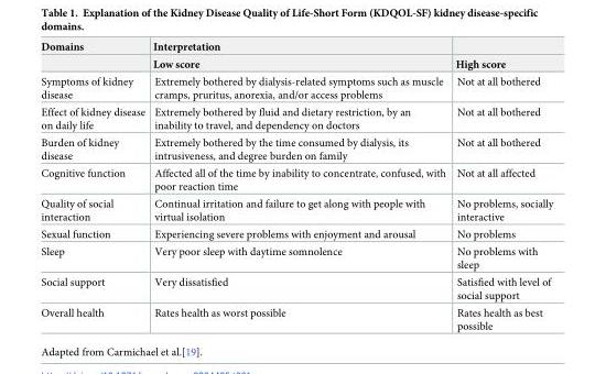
<table><thead><tr><td rowspan="2">Domains</td><td rowspan="2">Interpretation Low score</td><td rowspan="2">High score</td></tr><tr></tr></thead><tbody><tr><td>Symptoms of kidney disease</td><td>Extremely bothered by dialysis-related symptoms such as muscle cramps, pruritus, anorexia, and/or access problems</td><td>Not at all bothered</td></tr><tr><td>Effect of kidney disease on daily life</td><td>Extremely bothered by fluid and dietary restriction, by an inability to travel, and dependency on doctors</td><td>Not at all bothered</td></tr><tr><td>Burden of kidney disease</td><td>Extremely bothered by the time consumed by dialysis, its intrusiveness, and degree burden on family</td><td>Not at all bothered</td></tr><tr><td>Cognitive function</td><td>Affected all of the time by inability to concentrate, confused, with poor reaction time</td><td>Not at all affected</td></tr><tr><td>Quality of social interaction</td><td>Continual irritation and failure to get along with people with virtual isolation</td><td>No problems, socially interactive</td></tr><tr><td>Sexual function</td><td>Experiencing severe problems with enjoyment and arousal</td><td>No problems</td></tr><tr><td>Sleep</td><td>Very poor sleep with daytime somnolence</td><td>No problems with sleep</td></tr><tr><td>Social support</td><td>Very dissatisfied</td><td>Satisfied with level of social support</td></tr><tr><td>Overall health</td><td>Rates health as worst possible</td><td>Rates health as best possible</td></tr></tbody></table>